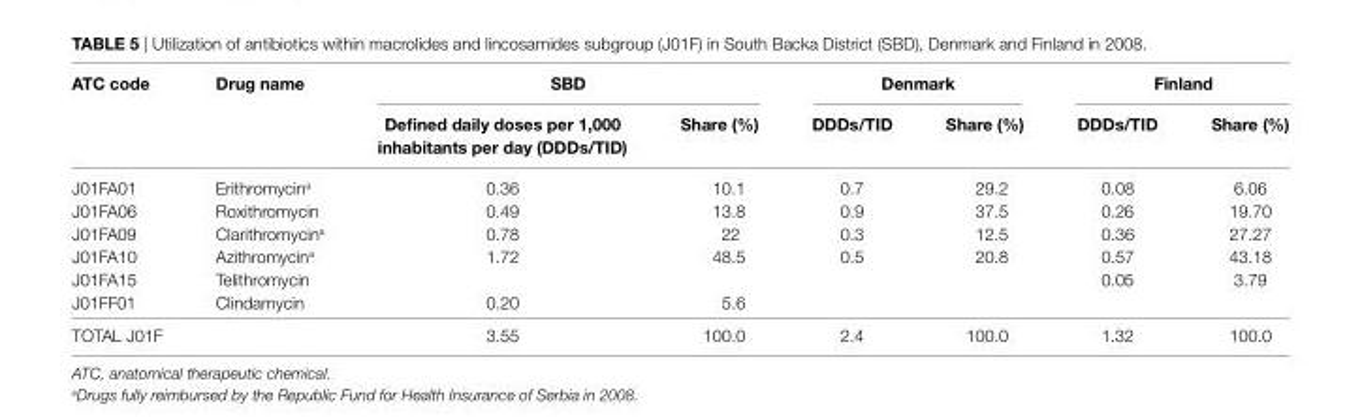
<table><thead><tr><td rowspan="2">aTc code</td><td rowspan="2">Drug name</td><td colspan="2">sBD</td><td colspan="2">Denmark</td><td colspan="2">Finland</td></tr><tr><td>Defined daily doses per 1,000 inhabitants per day (DDDs/TiD)</td><td>share (%)</td><td>DDDs/TiD</td><td>share (%)</td><td>DDDs/TiD</td><td>share (%)</td></tr></thead><tbody><tr><td>J01FA01</td><td>Erithromycin<sup>a</sup></td><td>0.36</td><td>10.1</td><td>0.7</td><td>29.2</td><td>0.08</td><td>6.06</td></tr><tr><td>J01FA06</td><td>Roxithromycin</td><td>0.49</td><td>13.8</td><td>0.9</td><td>37.5</td><td>0.26</td><td>19.70</td></tr><tr><td>J01FA09</td><td>Clarithromycin<sup>a</sup></td><td>0.78</td><td>22</td><td>0.3</td><td>12.5</td><td>0.36</td><td>27.27</td></tr><tr><td>J01FA10</td><td>Azithromycin<sup>a</sup></td><td>1.72</td><td>48.5</td><td>0.5</td><td>20.8</td><td>0.57</td><td>43.18</td></tr><tr><td>J01FA15</td><td>Telithromycin</td><td></td><td></td><td></td><td></td><td>0.05</td><td>3.79</td></tr><tr><td>J01FF01</td><td>Clindamycin</td><td>0.20</td><td>5.6</td><td></td><td></td><td></td><td></td></tr><tr><td>TOTAL J01F</td><td></td><td>3.55</td><td>100.0</td><td>2.4</td><td>100.0</td><td>1.32</td><td>100.0</td></tr></tbody></table>